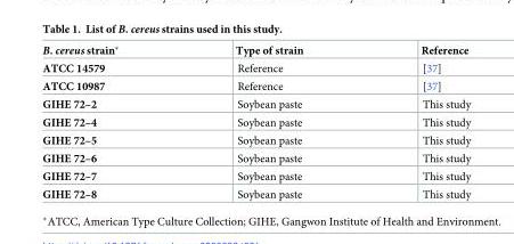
<table><thead><tr><td>B. cereus strain*</td><td>Type of strain</td><td>Reference</td></tr></thead><tbody><tr><td>ATCC 14579</td><td>Reference</td><td>[37]</td></tr><tr><td>ATCC 10987</td><td>Reference</td><td>[37]</td></tr><tr><td>GIHE 72–2</td><td>Soybean paste</td><td>This study</td></tr><tr><td>GIHE 72–4</td><td>Soybean paste</td><td>This study</td></tr><tr><td>GIHE 72–5</td><td>Soybean paste</td><td>This study</td></tr><tr><td>GIHE 72–6</td><td>Soybean paste</td><td>This study</td></tr><tr><td>GIHE 72–7</td><td>Soybean paste</td><td>This study</td></tr><tr><td>GIHE 72–8</td><td>Soybean paste</td><td>This study</td></tr></tbody></table>